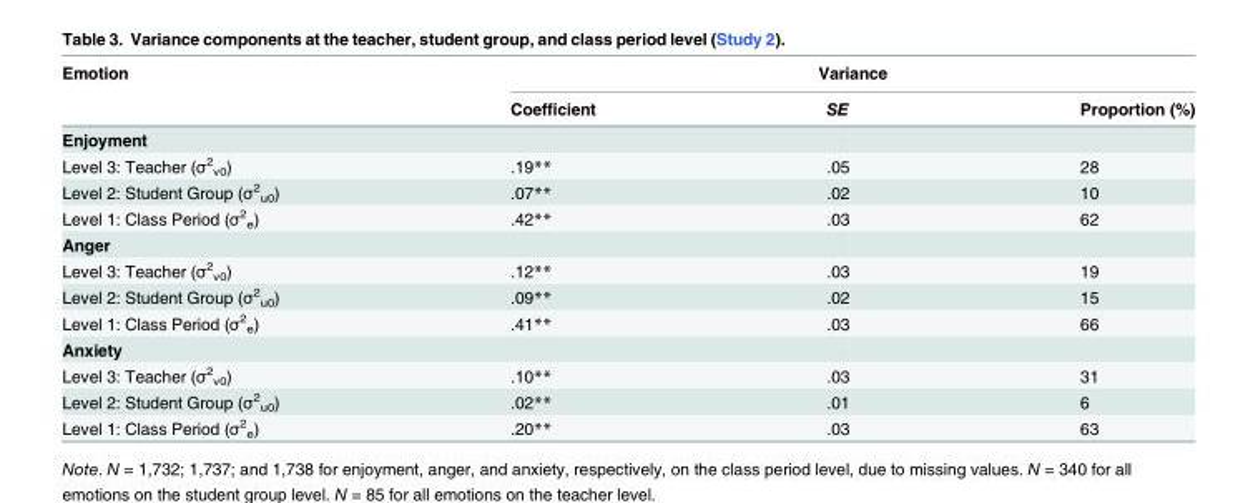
<table><thead><tr><td rowspan="2">Emotion</td><td colspan="3">Variance</td></tr><tr><td>Coefficient</td><td>SE</td><td>Proportion (%)</td></tr></thead><tbody><tr><td colspan="4">Enjoyment</td></tr><tr><td>Level 3: Teacher (σ<sup>2</sup> <sub>ν0</sub>)</td><td>.19**</td><td>.05</td><td>28</td></tr><tr><td>Level 2: Student Group (σ<sup>2</sup> <sub>u0</sub>)</td><td>.07**</td><td>.02</td><td>10</td></tr><tr><td>Level 1: Class Period (σ<sup>2</sup> <sub>e</sub>)</td><td>.42**</td><td>.03</td><td>62</td></tr><tr><td colspan="4">Anger</td></tr><tr><td>Level 3: Teacher (σ<sup>2</sup> <sub>ν0</sub>)</td><td>.12**</td><td>.03</td><td>19</td></tr><tr><td>Level 2: Student Group (σ<sup>2</sup> <sub>u0</sub>)</td><td>.09**</td><td>.02</td><td>15</td></tr><tr><td>Level 1: Class Period (σ<sup>2</sup> <sub>e</sub>)</td><td>.41**</td><td>.03</td><td>66</td></tr><tr><td colspan="4">Anxiety</td></tr><tr><td>Level 3: Teacher (σ<sup>2</sup> <sub>ν0</sub>)</td><td>.10**</td><td>.03</td><td>31</td></tr><tr><td>Level 2: Student Group (σ<sup>2</sup> <sub>u0</sub>)</td><td>.02**</td><td>.01</td><td>6</td></tr><tr><td>Level 1: Class Period (σ<sup>2</sup> <sub>e</sub>)</td><td>.20**</td><td>.03</td><td>63</td></tr></tbody></table>